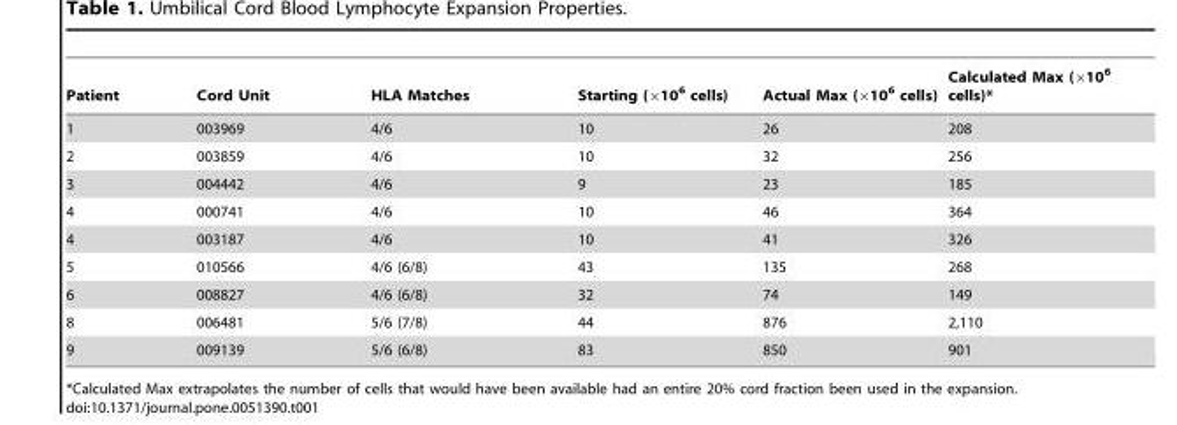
<table><thead><tr><td>Patient</td><td>Cord Unit</td><td>HLA Matches</td><td>Starting (×10<sup>6</sup> cells)</td><td>Actual Max (×10<sup>6</sup> cells)</td><td>Calculated Max (×10<sup>6</sup> cells)*</td></tr></thead><tbody><tr><td>1</td><td>003969</td><td>4/6</td><td>10</td><td>26</td><td>208</td></tr><tr><td>2</td><td>003859</td><td>4/6</td><td>10</td><td>32</td><td>256</td></tr><tr><td>3</td><td>004442</td><td>4/6</td><td>9</td><td>23</td><td>185</td></tr><tr><td>4</td><td>000741</td><td>4/6</td><td>10</td><td>46</td><td>364</td></tr><tr><td>4</td><td>003187</td><td>4/6</td><td>10</td><td>41</td><td>326</td></tr><tr><td>5</td><td>010566</td><td>4/6 (6/8)</td><td>43</td><td>135</td><td>268</td></tr><tr><td>6</td><td>008827</td><td>4/6 (6/8)</td><td>32</td><td>74</td><td>149</td></tr><tr><td>8</td><td>006481</td><td>5/6 (7/8)</td><td>44</td><td>876</td><td>2,110</td></tr><tr><td>9</td><td>009139</td><td>5/6 (6/8)</td><td>83</td><td>850</td><td>901</td></tr></tbody></table>